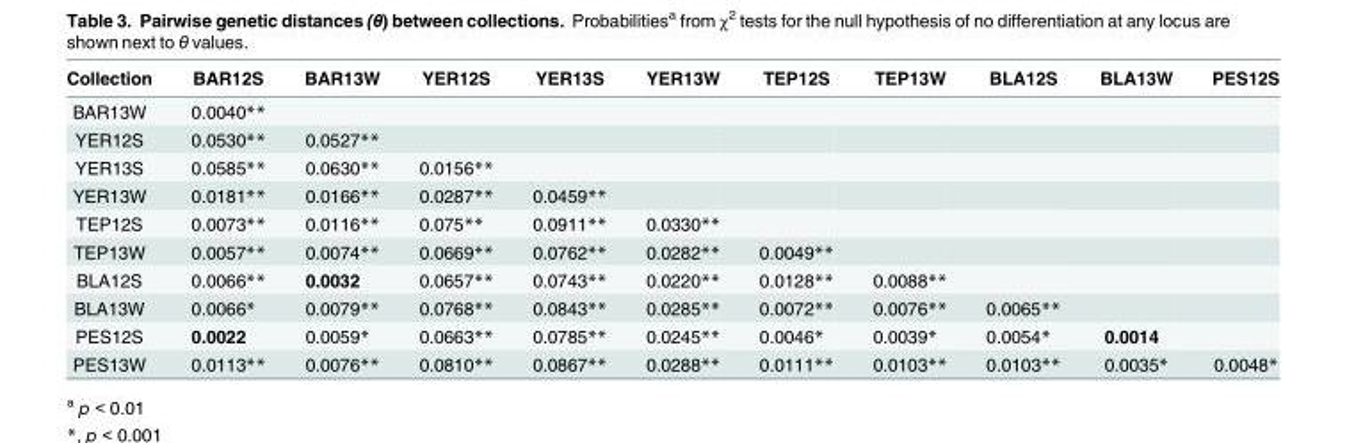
<table><thead><tr><td>Collection</td><td>BAR12S</td><td>BAR13W</td><td>YER12S</td><td>YER13S</td><td>YER13W</td><td>TEP12S</td><td>TEP13W</td><td>BLA12S</td><td>BLA13W</td><td>PES12S</td></tr></thead><tbody><tr><td>BAR13W</td><td>0.0040**</td><td></td><td></td><td></td><td></td><td></td><td></td><td></td><td></td><td></td></tr><tr><td>YER12S</td><td>0.0530**</td><td>0.0527**</td><td></td><td></td><td></td><td></td><td></td><td></td><td></td><td></td></tr><tr><td>YER13S</td><td>0.0585**</td><td>0.0630**</td><td>0.0156**</td><td></td><td></td><td></td><td></td><td></td><td></td><td></td></tr><tr><td>YER13W</td><td>0.0181**</td><td>0.0166**</td><td>0.0287**</td><td>0.0459**</td><td></td><td></td><td></td><td></td><td></td><td></td></tr><tr><td>TEP12S</td><td>0.0073**</td><td>0.0116**</td><td>0.075**</td><td>0.0911**</td><td>0.0330**</td><td></td><td></td><td></td><td></td><td></td></tr><tr><td>TEP13W</td><td>0.0057**</td><td>0.0074**</td><td>0.0669**</td><td>0.0762**</td><td>0.0282**</td><td>0.0049**</td><td></td><td></td><td></td><td></td></tr><tr><td>BLA12S</td><td>0.0066**</td><td>0.0032</td><td>0.0657**</td><td>0.0743**</td><td>0.0220**</td><td>0.0128**</td><td>0.0088**</td><td></td><td></td><td></td></tr><tr><td>BLA13W</td><td>0.0066*</td><td>0.0079**</td><td>0.0768**</td><td>0.0843**</td><td>0.0285**</td><td>0.0072**</td><td>0.0076**</td><td>0.0065**</td><td></td><td></td></tr><tr><td>PES12S</td><td>0.0022</td><td>0.0059*</td><td>0.0663**</td><td>0.0785**</td><td>0.0245**</td><td>0.0046*</td><td>0.0039*</td><td>0.0054*</td><td>0.0014</td><td></td></tr><tr><td>PES13W</td><td>0.0113**</td><td>0.0076**</td><td>0.0810**</td><td>0.0867**</td><td>0.0288**</td><td>0.0111**</td><td>0.0103**</td><td>0.0103**</td><td>0.0035*</td><td>0.0048*</td></tr></tbody></table>